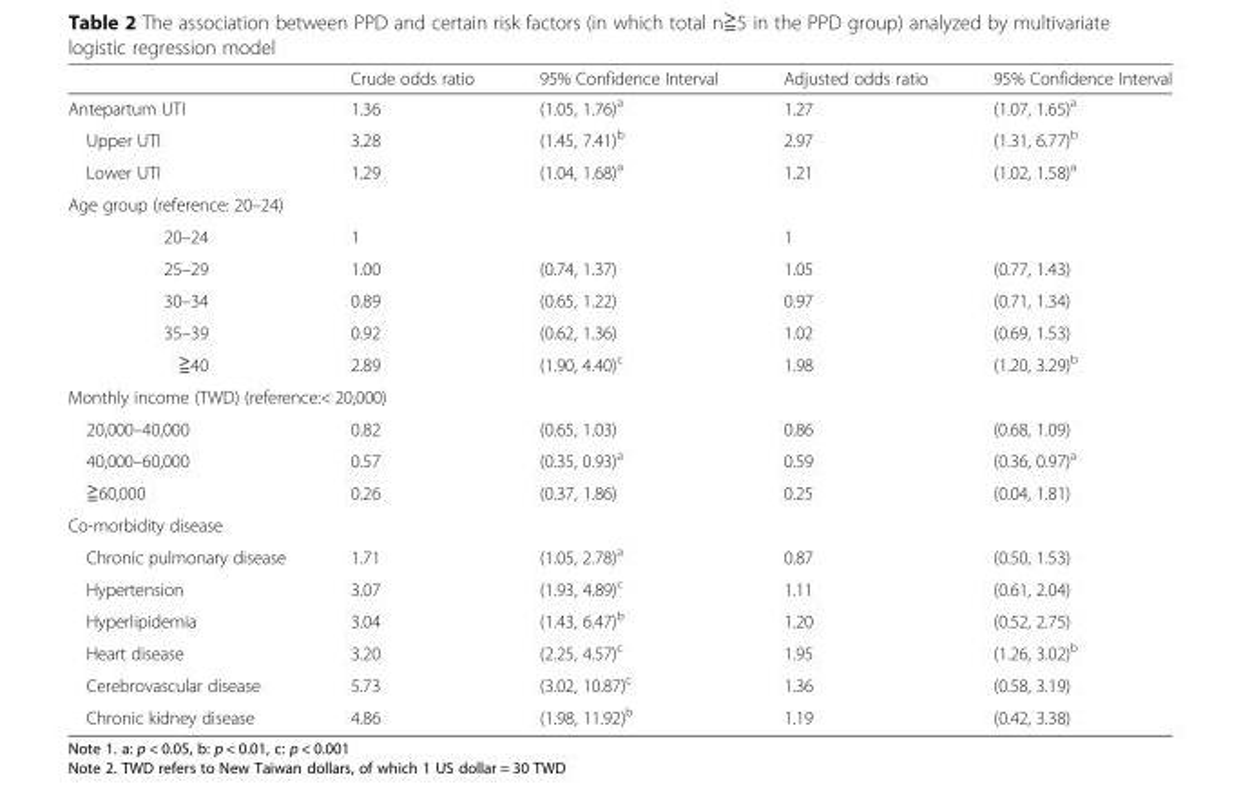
<table><thead><tr><td></td><td>Crude odds ratio</td><td>95% Confidence Interval</td><td>Adjusted odds ratio</td><td>95% Confidence Interval</td></tr></thead><tbody><tr><td>Antepartum UTI</td><td>1.36</td><td>(1.05, 1.76)<sup>a</sup></td><td>1.27</td><td>(1.07, 1.65)<sup>a</sup></td></tr><tr><td>Upper UTI</td><td>3.28</td><td>(1.45, 7.41)<sup>b</sup></td><td>2.97</td><td>(1.31, 6.77)<sup>b</sup></td></tr><tr><td>Lower UTI</td><td>1.29</td><td>(1.04, 1.68)<sup>a</sup></td><td>1.21</td><td>(1.02, 1.58)<sup>a</sup></td></tr><tr><td colspan="5">Age group (reference: 20–24)</td></tr><tr><td>20–24</td><td>1</td><td></td><td>1</td><td></td></tr><tr><td>25–29</td><td>1.00</td><td>(0.74, 1.37)</td><td>1.05</td><td>(0.77, 1.43)</td></tr><tr><td>30–34</td><td>0.89</td><td>(0.65, 1.22)</td><td>0.97</td><td>(0.71, 1.34)</td></tr><tr><td>35–39</td><td>0.92</td><td>(0.62, 1.36)</td><td>1.02</td><td>(0.69, 1.53)</td></tr><tr><td>≧40</td><td>2.89</td><td>(1.90, 4.40)<sup>c</sup></td><td>1.98</td><td>(1.20, 3.29)<sup>b</sup></td></tr><tr><td colspan="5">Monthly income (TWD) (reference:&lt; 20,000)</td></tr><tr><td>20,000–40,000</td><td>0.82</td><td>(0.65, 1.03)</td><td>0.86</td><td>(0.68, 1.09)</td></tr><tr><td>40,000–60,000</td><td>0.57</td><td>(0.35, 0.93)<sup>a</sup></td><td>0.59</td><td>(0.36, 0.97)<sup>a</sup></td></tr><tr><td>≧60,000</td><td>0.26</td><td>(0.37, 1.86)</td><td>0.25</td><td>(0.04, 1.81)</td></tr><tr><td colspan="5">Co-morbidity disease</td></tr><tr><td>Chronic pulmonary disease</td><td>1.71</td><td>(1.05, 2.78)<sup>a</sup></td><td>0.87</td><td>(0.50, 1.53)</td></tr><tr><td>Hypertension</td><td>3.07</td><td>(1.93, 4.89)<sup>c</sup></td><td>1.11</td><td>(0.61, 2.04)</td></tr><tr><td>Hyperlipidemia</td><td>3.04</td><td>(1.43, 6.47)<sup>b</sup></td><td>1.20</td><td>(0.52, 2.75)</td></tr><tr><td>Heart disease</td><td>3.20</td><td>(2.25, 4.57)<sup>c</sup></td><td>1.95</td><td>(1.26, 3.02)<sup>b</sup></td></tr><tr><td>Cerebrovascular disease</td><td>5.73</td><td>(3.02, 10.87)<sup>c</sup></td><td>1.36</td><td>(0.58, 3.19)</td></tr><tr><td>Chronic kidney disease</td><td>4.86</td><td>(1.98, 11.92)<sup>b</sup></td><td>1.19</td><td>(0.42, 3.38)</td></tr></tbody></table>